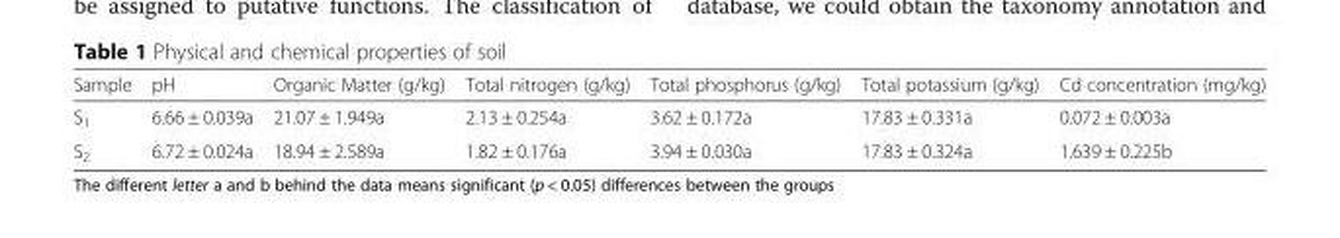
<table><thead><tr><td>Sample</td><td>pH</td><td>Organic Matter (g/kg)</td><td>Total nitrogen (g/kg)</td><td>Total phosphorus (g/kg)</td><td>Total potassium (g/kg)</td><td>Cd concentration (mg/kg)</td></tr></thead><tbody><tr><td>S<sub>1</sub></td><td>6.66 ± 0.039a</td><td>21.07 ± 1.949a</td><td>2.13 ± 0.254a</td><td>3.62 ± 0.172a</td><td>17.83 ± 0.331a</td><td>0.072 ± 0.003a</td></tr><tr><td>S<sub>2</sub></td><td>6.72 ± 0.024a</td><td>18.94 ± 2.589a</td><td>1.82 ± 0.176a</td><td>3.94 ± 0.030a</td><td>17.83 ± 0.324a</td><td>1.639 ± 0.225b</td></tr></tbody></table>